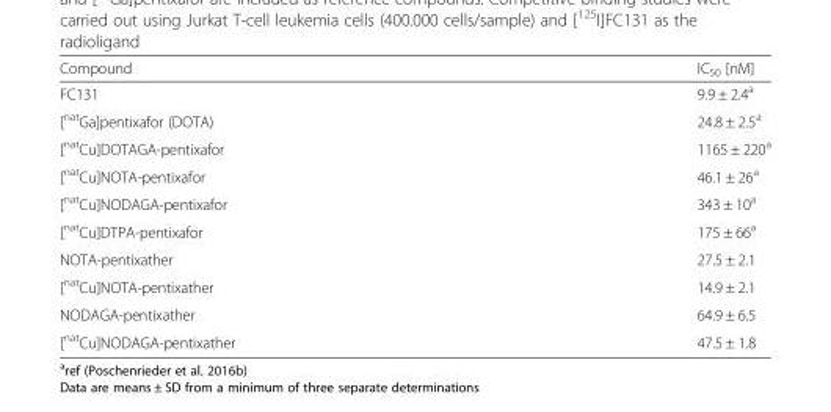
<table><thead><tr><td>Compound</td><td>IC<sub>50</sub> [nM]</td></tr></thead><tbody><tr><td>FC131</td><td>9.9 ± 2.4<sup>a</sup></td></tr><tr><td>[<sup>nat</sup>Ga]pentixafor (DOTA)</td><td>24.8 ± 2.5<sup>a</sup></td></tr><tr><td>[<sup>nat</sup>Cu]DOTAGA-pentixafor</td><td>1165 ± 220<sup>a</sup></td></tr><tr><td>[<sup>nat</sup>Cu]NOTA-pentixafor</td><td>46.1 ± 26<sup>a</sup></td></tr><tr><td>[<sup>nat</sup>Cu]NODAGA-pentixafor</td><td>343 ± 10<sup>a</sup></td></tr><tr><td>[<sup>nat</sup>Cu]DTPA-pentixafor</td><td>175 ± 66<sup>a</sup></td></tr><tr><td>NOTA-pentixather</td><td>27.5 ± 2.1</td></tr><tr><td>[<sup>nat</sup>Cu]NOTA-pentixather</td><td>14.9 ± 2.1</td></tr><tr><td>NODAGA-pentixather</td><td>64.9 ± 6.5</td></tr><tr><td>[<sup>nat</sup>Cu]NODAGA-pentixather</td><td>47.5 ± 1.8</td></tr></tbody></table>